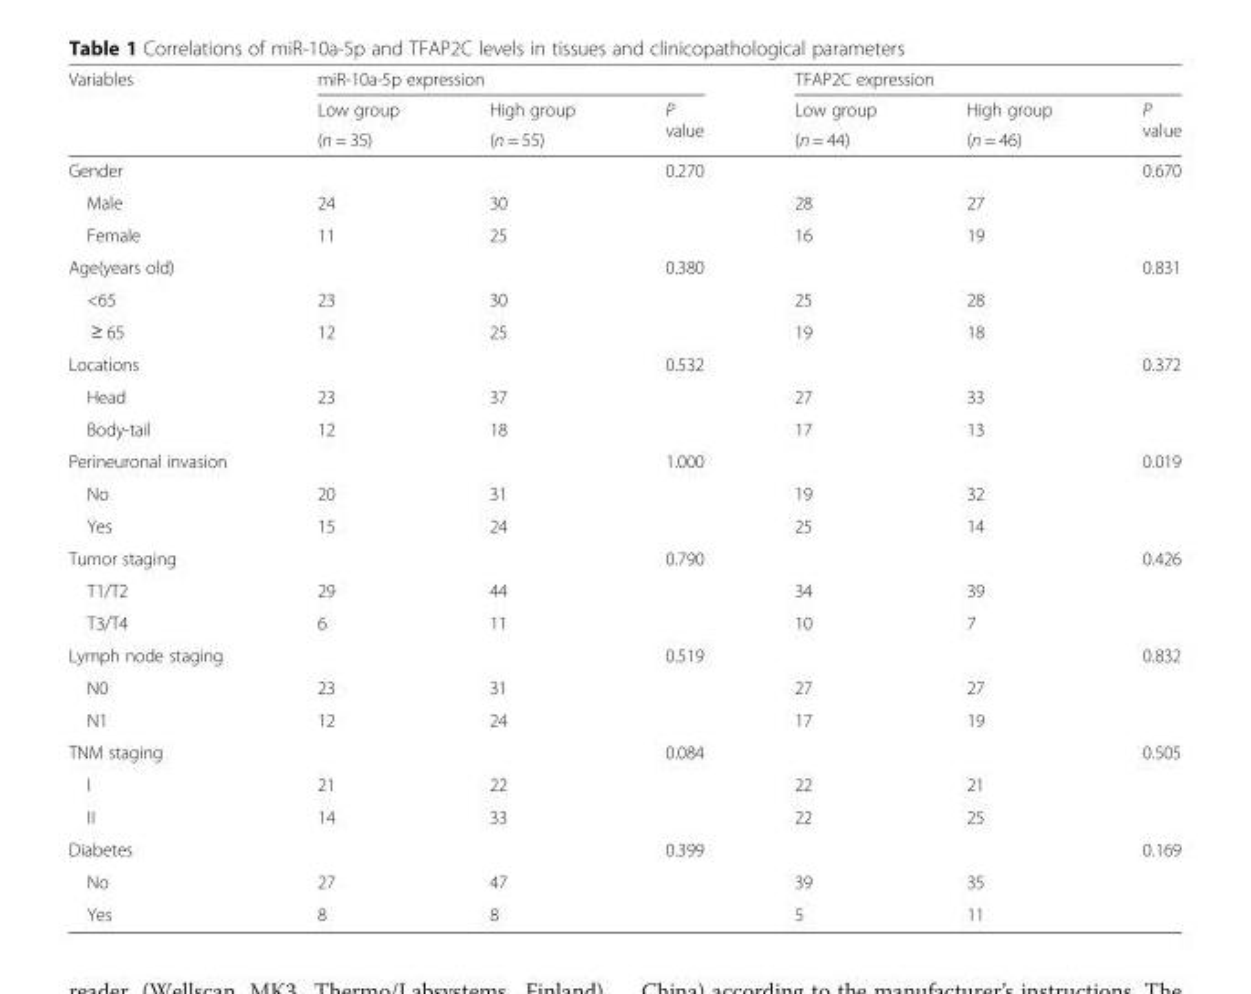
<table><thead><tr><td rowspan="3">Variables</td><td colspan="3">miR-10a-5p expression</td><td colspan="3">TFAP2C expression</td></tr><tr><td rowspan="2">Low group (n = 35)</td><td rowspan="2">High group (n = 55)</td><td rowspan="2">P value</td><td rowspan="2">Low group (n = 44)</td><td rowspan="2">High group (n = 46)</td><td rowspan="2">P value</td></tr><tr></tr></thead><tbody><tr><td>Gender</td><td></td><td></td><td>0.270</td><td></td><td></td><td>0.670</td></tr><tr><td>Male</td><td>24</td><td>30</td><td></td><td>28</td><td>27</td><td></td></tr><tr><td>Female</td><td>11</td><td>25</td><td></td><td>16</td><td>19</td><td></td></tr><tr><td>Age(years old)</td><td></td><td></td><td>0.380</td><td></td><td></td><td>0.831</td></tr><tr><td>&lt;65</td><td>23</td><td>30</td><td></td><td>25</td><td>28</td><td></td></tr><tr><td>≥ 65</td><td>12</td><td>25</td><td></td><td>19</td><td>18</td><td></td></tr><tr><td>Locations</td><td></td><td></td><td>0.532</td><td></td><td></td><td>0.372</td></tr><tr><td>Head</td><td>23</td><td>37</td><td></td><td>27</td><td>33</td><td></td></tr><tr><td>Body-tail</td><td>12</td><td>18</td><td></td><td>17</td><td>13</td><td></td></tr><tr><td>Perineuronal invasion</td><td></td><td></td><td>1.000</td><td></td><td></td><td>0.019</td></tr><tr><td>No</td><td>20</td><td>31</td><td></td><td>19</td><td>32</td><td></td></tr><tr><td>Yes</td><td>15</td><td>24</td><td></td><td>25</td><td>14</td><td></td></tr><tr><td>Tumor staging</td><td></td><td></td><td>0.790</td><td></td><td></td><td>0.426</td></tr><tr><td>T1/T2</td><td>29</td><td>44</td><td></td><td>34</td><td>39</td><td></td></tr><tr><td>T3/T4</td><td>6</td><td>11</td><td></td><td>10</td><td>7</td><td></td></tr><tr><td>Lymph node staging</td><td></td><td></td><td>0.519</td><td></td><td></td><td>0.832</td></tr><tr><td>N0</td><td>23</td><td>31</td><td></td><td>27</td><td>27</td><td></td></tr><tr><td>N1</td><td>12</td><td>24</td><td></td><td>17</td><td>19</td><td></td></tr><tr><td>TNM staging</td><td></td><td></td><td>0.084</td><td></td><td></td><td>0.505</td></tr><tr><td>I</td><td>21</td><td>22</td><td></td><td>22</td><td>21</td><td></td></tr><tr><td>II</td><td>14</td><td>33</td><td></td><td>22</td><td>25</td><td></td></tr><tr><td>Diabetes</td><td></td><td></td><td>0.399</td><td></td><td></td><td>0.169</td></tr><tr><td>No</td><td>27</td><td>47</td><td></td><td>39</td><td>35</td><td></td></tr><tr><td>Yes</td><td>8</td><td>8</td><td></td><td>5</td><td>11</td><td></td></tr></tbody></table>